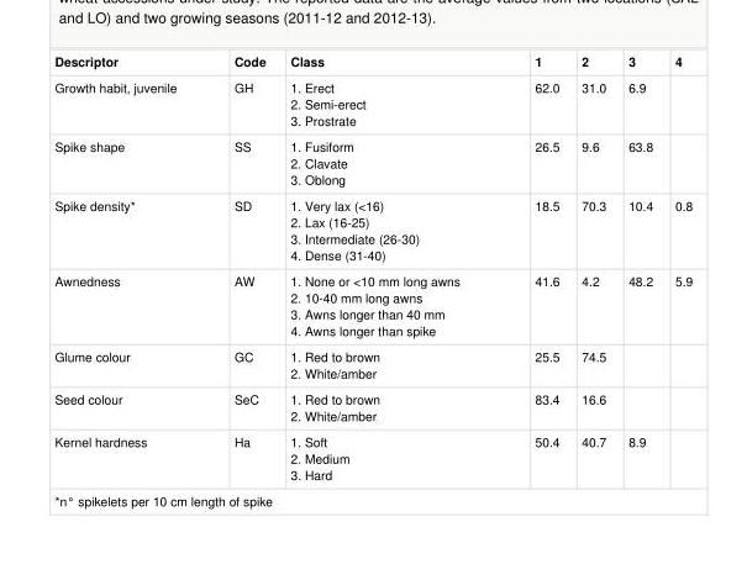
<table><tbody><tr><td>Descriptor</td><td>Code</td><td>Class</td><td>1</td><td>2</td><td>3</td><td>4</td></tr><tr><td>Growth habit, juvenile</td><td>GH</td><td>1. Erect 2. Semi-erect 3. Prostrate</td><td>62.0</td><td>31.0</td><td>6.9</td><td></td></tr><tr><td>Spike shape</td><td>SS</td><td>1. Fusiform 2. Clavate 3. Oblong</td><td>26.5</td><td>9.6</td><td>63.8</td><td></td></tr><tr><td>Spike density*</td><td>SD</td><td>1. Very lax (&lt;16) 2. Lax (16-25) 3. Intermediate (26-30) 4. Dense (31-40)</td><td>18.5</td><td>70.3</td><td>10.4</td><td>0.8</td></tr><tr><td>Awnedness</td><td>AW</td><td>1. None or &lt;10 mm long awns 2. 10-40 mm long awns 3. Awns longer than 40 mm 4. Awns longer than spike</td><td>41.6</td><td>4.2</td><td>48.2</td><td>5.9</td></tr><tr><td>Glume colour</td><td>GC</td><td>1. Red to brown 2. White/amber</td><td>25.5</td><td>74.5</td><td></td><td></td></tr><tr><td>Seed colour</td><td>SeC</td><td>1. Red to brown 2. White/amber</td><td>83.4</td><td>16.6</td><td></td><td></td></tr><tr><td>Kernel hardness</td><td>Ha</td><td>1. Soft 2. Medium 3. Hard</td><td>50.4</td><td>40.7</td><td>8.9</td><td></td></tr><tr><td colspan="7">*n° spikelets per 10 cm length of spike</td></tr></tbody></table>